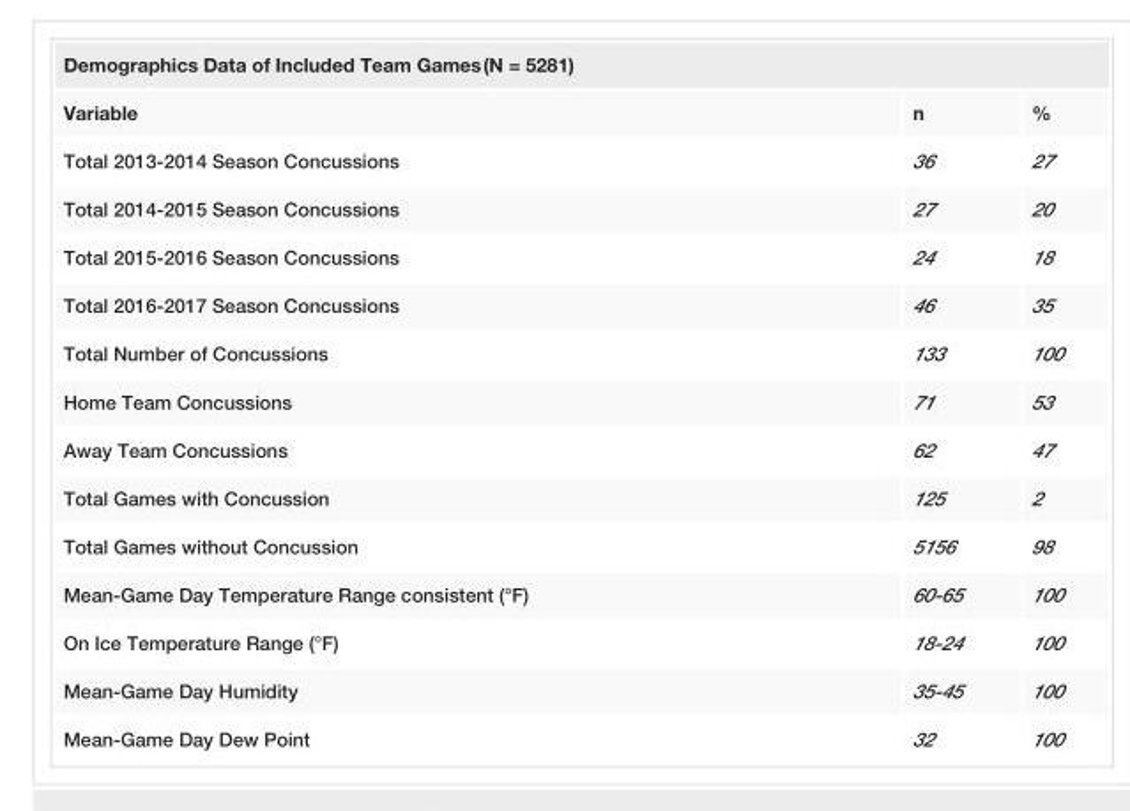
<table><tbody><tr><td colspan="3">Demographics Data of Included Team Games (N = 5281)</td></tr><tr><td>Variable</td><td>n</td><td>%</td></tr><tr><td>Total 2013-2014 Season Concussions</td><td>36</td><td>27</td></tr><tr><td>Total 2014-2015 Season Concussions</td><td>27</td><td>20</td></tr><tr><td>Total 2015-2016 Season Concussions</td><td>24</td><td>18</td></tr><tr><td>Total 2016-2017 Season Concussions</td><td>46</td><td>35</td></tr><tr><td>Total Number of Concussions</td><td>133</td><td>100</td></tr><tr><td>Home Team Concussions</td><td>71</td><td>53</td></tr><tr><td>Away Team Concussions</td><td>62</td><td>47</td></tr><tr><td>Total Games with Concussion</td><td>125</td><td>2</td></tr><tr><td>Total Games without Concussion</td><td>5156</td><td>98</td></tr><tr><td>Mean-Game Day Temperature Range consistent (°F)</td><td>60-65</td><td>100</td></tr><tr><td>On Ice Temperature Range (°F)</td><td>18-24</td><td>100</td></tr><tr><td>Mean-Game Day Humidity</td><td>35-45</td><td>100</td></tr><tr><td>Mean-Game Day Dew Point</td><td>32</td><td>100</td></tr></tbody></table>